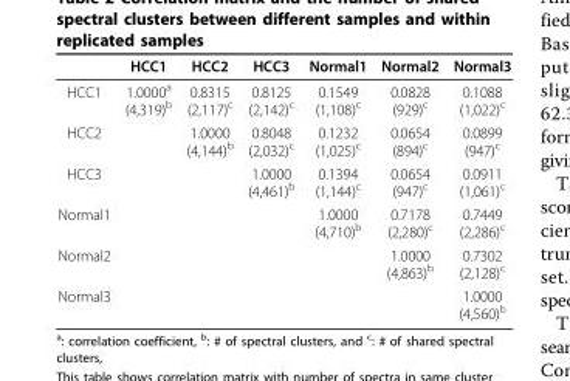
<table><thead><tr><td></td><td>HCC1</td><td>HCC2</td><td>HCC3</td><td>Normal1</td><td>Normal2</td><td>Normal3</td></tr></thead><tbody><tr><td>HCC1</td><td>1.0000<sup>a</sup> (4,319)<sup>b</sup></td><td>0.8315 (2,117)<sup>c</sup></td><td>0.8125 (2,142)<sup>c</sup></td><td>0.1549 (1,108)<sup>c</sup></td><td>0.0828 (929)<sup>c</sup></td><td>0.1088 (1,022)<sup>c</sup></td></tr><tr><td>HCC2</td><td></td><td>1.0000 (4,144)<sup>b</sup></td><td>0.8048 (2,032)<sup>c</sup></td><td>0.1232 (1,025)<sup>c</sup></td><td>0.0654 (894)<sup>c</sup></td><td>0.0899 (947)<sup>c</sup></td></tr><tr><td>HCC3</td><td></td><td></td><td>1.0000 (4,461)<sup>b</sup></td><td>0.1394 (1,144)<sup>c</sup></td><td>0.0654 (947)<sup>c</sup></td><td>0.0911 (1,061)<sup>c</sup></td></tr><tr><td>Normal1</td><td></td><td></td><td></td><td>1.0000 (4,710)<sup>b</sup></td><td>0.7178 (2,280)<sup>c</sup></td><td>0.7449 (2,286)<sup>c</sup></td></tr><tr><td>Normal2</td><td></td><td></td><td></td><td></td><td>1.0000 (4,863)<sup>b</sup></td><td>0.7302 (2,128)<sup>c</sup></td></tr><tr><td>Normal3</td><td></td><td></td><td></td><td></td><td></td><td>1.0000 (4,560)<sup>b</sup></td></tr></tbody></table>